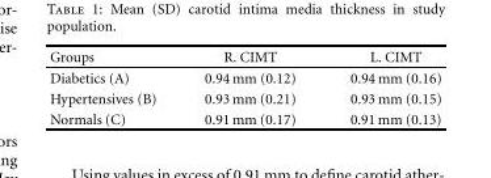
<table><thead><tr><td>Groups</td><td>R. CIMT</td><td>L. CIMT</td></tr></thead><tbody><tr><td>Diabetics (A)</td><td>0.94 mm (0.12)</td><td>0.94 mm (0.16)</td></tr><tr><td>Hypertensives (B)</td><td>0.93 mm (0.21)</td><td>0.93 mm (0.15)</td></tr><tr><td>Normals (C)</td><td>0.91 mm (0.17)</td><td>0.91 mm (0.13)</td></tr></tbody></table>